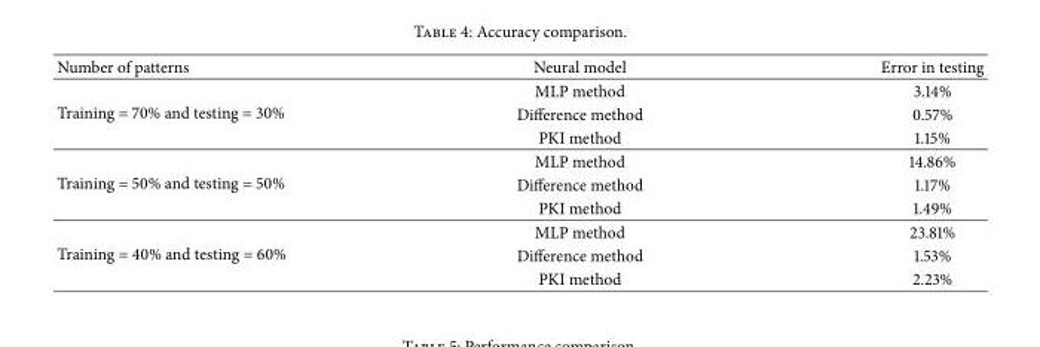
<table><thead><tr><td>Number of patterns</td><td>Neural model</td><td>Error in testing</td></tr></thead><tbody><tr><td rowspan="3">Training = 70% and testing = 30%</td><td>MLP method</td><td>3.14%</td></tr><tr><td>Difference method</td><td>0.57%</td></tr><tr><td>PKI method</td><td>1.15%</td></tr><tr><td rowspan="3">Training = 50% and testing = 50%</td><td>MLP method</td><td>14.86%</td></tr><tr><td>Difference method</td><td>1.17%</td></tr><tr><td>PKI method</td><td>1.49%</td></tr><tr><td rowspan="3">Training = 40% and testing = 60%</td><td>MLP method</td><td>23.81%</td></tr><tr><td>Difference method</td><td>1.53%</td></tr><tr><td>PKI method</td><td>2.23%</td></tr></tbody></table>